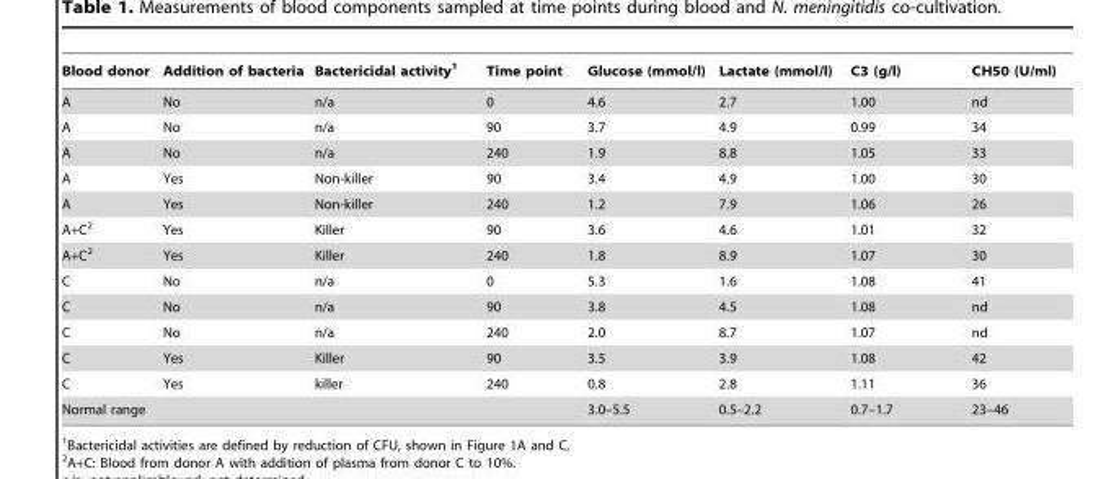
<table><thead><tr><td>Blood donor</td><td>Addition of bacteria</td><td>Bactericidal activity<sup>1</sup></td><td>Time point</td><td>Glucose (mmol/l)</td><td>Lactate (mmol/l)</td><td>C3 (g/l)</td><td>CH50 (U/ml)</td></tr></thead><tbody><tr><td>A</td><td>No</td><td>n/a</td><td>0</td><td>4.6</td><td>2.7</td><td>1.00</td><td>nd</td></tr><tr><td>A</td><td>No</td><td>n/a</td><td>90</td><td>3.7</td><td>4.9</td><td>0.99</td><td>34</td></tr><tr><td>A</td><td>No</td><td>n/a</td><td>240</td><td>1.9</td><td>8.8</td><td>1.05</td><td>33</td></tr><tr><td>A</td><td>Yes</td><td>Non-killer</td><td>90</td><td>3.4</td><td>4.9</td><td>1.00</td><td>30</td></tr><tr><td>A</td><td>Yes</td><td>Non-killer</td><td>240</td><td>1.2</td><td>7.9</td><td>1.06</td><td>26</td></tr><tr><td>A+C<sup>2</sup></td><td>Yes</td><td>Killer</td><td>90</td><td>3.6</td><td>4.6</td><td>1.01</td><td>32</td></tr><tr><td>A+C<sup>2</sup></td><td>Yes</td><td>Killer</td><td>240</td><td>1.8</td><td>8.9</td><td>1.07</td><td>30</td></tr><tr><td>C</td><td>No</td><td>n/a</td><td>0</td><td>5.3</td><td>1.6</td><td>1.08</td><td>41</td></tr><tr><td>C</td><td>No</td><td>n/a</td><td>90</td><td>3.8</td><td>4.5</td><td>1.08</td><td>nd</td></tr><tr><td>C</td><td>No</td><td>n/a</td><td>240</td><td>2.0</td><td>8.7</td><td>1.07</td><td>nd</td></tr><tr><td>C</td><td>Yes</td><td>Killer</td><td>90</td><td>3.5</td><td>3.9</td><td>1.08</td><td>42</td></tr><tr><td>C</td><td>Yes</td><td>killer</td><td>240</td><td>0.8</td><td>2.8</td><td>1.11</td><td>36</td></tr><tr><td colspan="4">Normal range</td><td>3.0–5.5</td><td>0.5–2.2</td><td>0.7–1.7</td><td>23–46</td></tr></tbody></table>